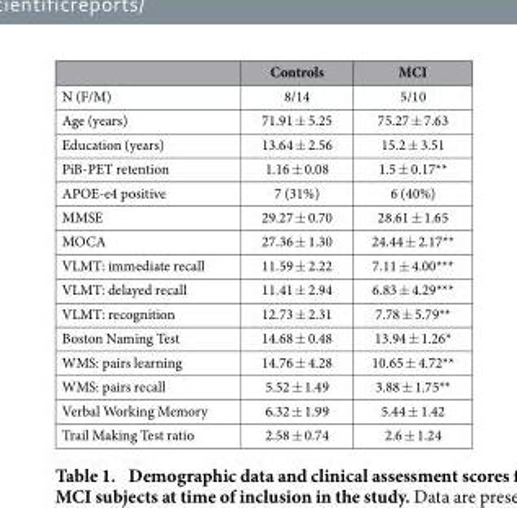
<table><thead><tr><td></td><td>Controls</td><td>MCI</td></tr></thead><tbody><tr><td>N (F/M)</td><td>8/14</td><td>5/10</td></tr><tr><td>Age (years)</td><td>71.91 ± 5.25</td><td>75.27 ± 7.63</td></tr><tr><td>Education (years)</td><td>13.64 ± 2.56</td><td>15.2 ± 3.51</td></tr><tr><td>PiB-PET retention</td><td>1.16 ± 0.08</td><td>1.5 ± 0.17**</td></tr><tr><td>APOE-e4 positive</td><td>7 (31%)</td><td>6 (40%)</td></tr><tr><td>MMSE</td><td>29.27 ± 0.70</td><td>28.61 ± 1.65</td></tr><tr><td>MOCA</td><td>27.36 ± 1.30</td><td>24.44 ± 2.17**</td></tr><tr><td>VLMT: immediate recall</td><td>11.59 ± 2.22</td><td>7.11 ± 4.00***</td></tr><tr><td>VLMT: delayed recall</td><td>11.41 ± 2.94</td><td>6.83 ± 4.29***</td></tr><tr><td>VLMT: recognition</td><td>12.73 ± 2.31</td><td>7.78 ± 5.79**</td></tr><tr><td>Boston Naming Test</td><td>14.68 ± 0.48</td><td>13.94 ± 1.26*</td></tr><tr><td>WMS: pairs learning</td><td>14.76 ± 4.28</td><td>10.65 ± 4.72**</td></tr><tr><td>WMS: pairs recall</td><td>5.52 ± 1.49</td><td>3.88 ± 1.75**</td></tr><tr><td>Verbal Working Memory</td><td>6.32 ± 1.99</td><td>5.44 ± 1.42</td></tr><tr><td>Trail Making Test ratio</td><td>2.58 ± 0.74</td><td>2.6 ± 1.24</td></tr></tbody></table>